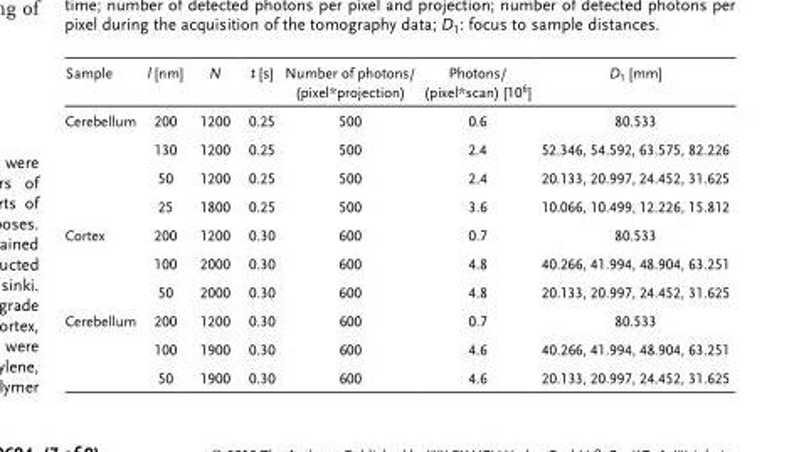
<table><thead><tr><td>Sample</td><td>l [nm]</td><td>N</td><td>t [s]</td><td>Number of photons/ (pixel*projection)</td><td>Photons/ (pixel*scan) [10<sup>6</sup>]</td><td>D<sub>1</sub> [mm]</td></tr></thead><tbody><tr><td rowspan="4">Cerebellum</td><td>200</td><td>1200</td><td>0.25</td><td>500</td><td>0.6</td><td>80.533</td></tr><tr><td>130</td><td>1200</td><td>0.25</td><td>500</td><td>2.4</td><td>52.346, 54.592, 63.575, 82.226</td></tr><tr><td>50</td><td>1200</td><td>0.25</td><td>500</td><td>2.4</td><td>20.133, 20.997, 24.452, 31.625</td></tr><tr><td>25</td><td>1800</td><td>0.25</td><td>500</td><td>3.6</td><td>10.066, 10.499, 12.226, 15.812</td></tr><tr><td rowspan="3">Cortex</td><td>200</td><td>1200</td><td>0.30</td><td>600</td><td>0.7</td><td>80.533</td></tr><tr><td>100</td><td>2000</td><td>0.30</td><td>600</td><td>4.8</td><td>40.266, 41.994, 48.904, 63.251</td></tr><tr><td>50</td><td>2000</td><td>0.30</td><td>600</td><td>4.8</td><td>20.133, 20.997, 24.452, 31.625</td></tr><tr><td rowspan="3">Cerebellum</td><td>200</td><td>1200</td><td>0.30</td><td>600</td><td>0.7</td><td>80.533</td></tr><tr><td>100</td><td>1900</td><td>0.30</td><td>600</td><td>4.6</td><td>40.266, 41.994, 48.904, 63.251</td></tr><tr><td>50</td><td>1900</td><td>0.30</td><td>600</td><td>4.6</td><td>20.133, 20.997, 24.452, 31.625</td></tr></tbody></table>